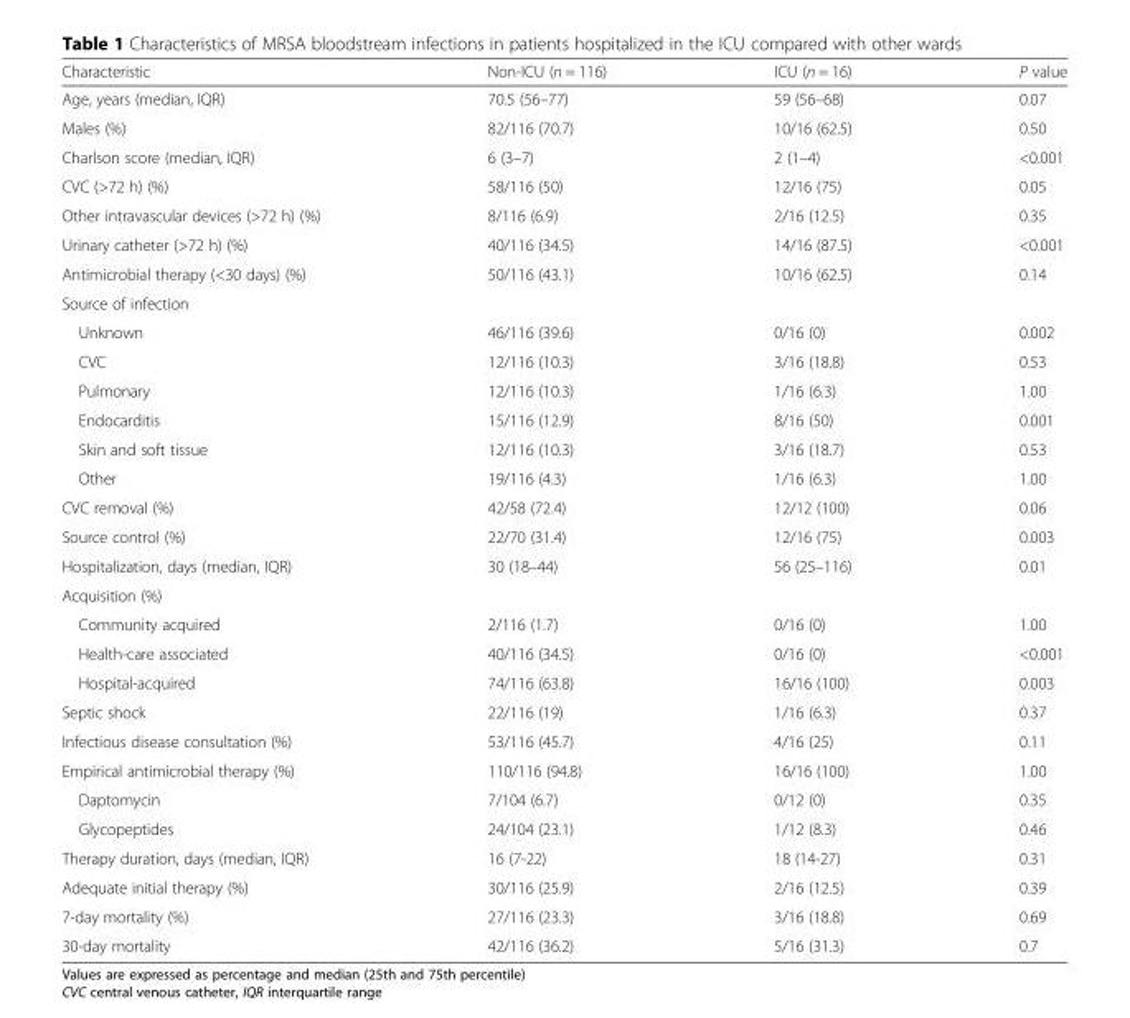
<table><thead><tr><td>Characteristic</td><td>Non-ICU (n = 116)</td><td>ICU (n = 16)</td><td>P value</td></tr></thead><tbody><tr><td>Age, years (median, IQR)</td><td>70.5 (56–77)</td><td>59 (56–68)</td><td>0.07</td></tr><tr><td>Males (%)</td><td>82/116 (70.7)</td><td>10/16 (62.5)</td><td>0.50</td></tr><tr><td>Charlson score (median, IQR)</td><td>6 (3–7)</td><td>2 (1–4)</td><td>&lt;0.001</td></tr><tr><td>CVC (&gt;72 h) (%)</td><td>58/116 (50)</td><td>12/16 (75)</td><td>0.05</td></tr><tr><td>Other intravascular devices (&gt;72 h) (%)</td><td>8/116 (6.9)</td><td>2/16 (12.5)</td><td>0.35</td></tr><tr><td>Urinary catheter (&gt;72 h) (%)</td><td>40/116 (34.5)</td><td>14/16 (87.5)</td><td>&lt;0.001</td></tr><tr><td>Antimicrobial therapy (&lt;30 days) (%)</td><td>50/116 (43.1)</td><td>10/16 (62.5)</td><td>0.14</td></tr><tr><td colspan="4">Source of infection</td></tr><tr><td>Unknown</td><td>46/116 (39.6)</td><td>0/16 (0)</td><td>0.002</td></tr><tr><td>CVC</td><td>12/116 (10.3)</td><td>3/16 (18.8)</td><td>0.53</td></tr><tr><td>Pulmonary</td><td>12/116 (10.3)</td><td>1/16 (6.3)</td><td>1.00</td></tr><tr><td>Endocarditis</td><td>15/116 (12.9)</td><td>8/16 (50)</td><td>0.001</td></tr><tr><td>Skin and soft tissue</td><td>12/116 (10.3)</td><td>3/16 (18.7)</td><td>0.53</td></tr><tr><td>Other</td><td>19/116 (4.3)</td><td>1/16 (6.3)</td><td>1.00</td></tr><tr><td>CVC removal (%)</td><td>42/58 (72.4)</td><td>12/12 (100)</td><td>0.06</td></tr><tr><td>Source control (%)</td><td>22/70 (31.4)</td><td>12/16 (75)</td><td>0.003</td></tr><tr><td>Hospitalization, days (median, IQR)</td><td>30 (18–44)</td><td>56 (25–116)</td><td>0.01</td></tr><tr><td colspan="4">Acquisition (%)</td></tr><tr><td>Community acquired</td><td>2/116 (1.7)</td><td>0/16 (0)</td><td>1.00</td></tr><tr><td>Health-care associated</td><td>40/116 (34.5)</td><td>0/16 (0)</td><td>&lt;0.001</td></tr><tr><td>Hospital-acquired</td><td>74/116 (63.8)</td><td>16/16 (100)</td><td>0.003</td></tr><tr><td>Septic shock</td><td>22/116 (19)</td><td>1/16 (6.3)</td><td>0.37</td></tr><tr><td>Infectious disease consultation (%)</td><td>53/116 (45.7)</td><td>4/16 (25)</td><td>0.11</td></tr><tr><td>Empirical antimicrobial therapy (%)</td><td>110/116 (94.8)</td><td>16/16 (100)</td><td>1.00</td></tr><tr><td>Daptomycin</td><td>7/104 (6.7)</td><td>0/12 (0)</td><td>0.35</td></tr><tr><td>Glycopeptides</td><td>24/104 (23.1)</td><td>1/12 (8.3)</td><td>0.46</td></tr><tr><td>Therapy duration, days (median, IQR)</td><td>16 (7-22)</td><td>18 (14-27)</td><td>0.31</td></tr><tr><td>Adequate initial therapy (%)</td><td>30/116 (25.9)</td><td>2/16 (12.5)</td><td>0.39</td></tr><tr><td>7-day mortality (%)</td><td>27/116 (23.3)</td><td>3/16 (18.8)</td><td>0.69</td></tr><tr><td>30-day mortality</td><td>42/116 (36.2)</td><td>5/16 (31.3)</td><td>0.7</td></tr></tbody></table>